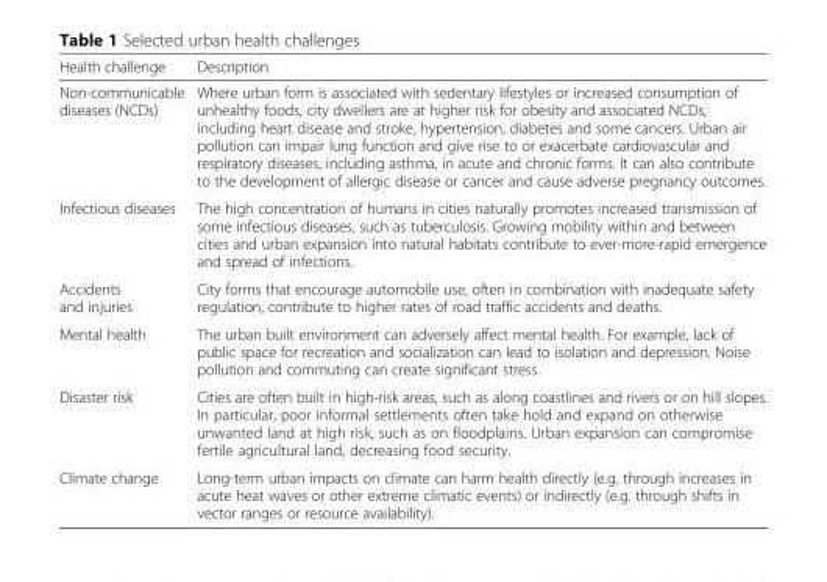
<table><thead><tr><td>Health challenge</td><td>Description</td></tr></thead><tbody><tr><td>Non-communicable diseases (NCDs)</td><td>Where urban form is associated with sedentary lifestyles or increased consumption of unhealthy foods, city dwellers are at higher risk for obesity and associated NCDs, including heart disease and stroke, hypertension, diabetes and some cancers. Urban air pollution can impair lung function and give rise to or exacerbate cardiovascular and respiratory diseases, including asthma, in acute and chronic forms. It can also contribute to the development of allergic disease or cancer and cause adverse pregnancy outcomes.</td></tr><tr><td>Infectious diseases</td><td>The high concentration of humans in cities naturally promotes increased transmission of some infectious diseases, such as tuberculosis. Growing mobility within and between cities and urban expansion into natural habitats contribute to ever-more-rapid emergence and spread of infections.</td></tr><tr><td>Accidents and injuries</td><td>City forms that encourage automobile use, often in combination with inadequate safety regulation, contribute to higher rates of road traffic accidents and deaths.</td></tr><tr><td>Mental health</td><td>The urban built environment can adversely affect mental health. For example, lack of public space for recreation and socialization can lead to isolation and depression. Noise pollution and commuting can create significant stress.</td></tr><tr><td>Disaster risk</td><td>Cities are often built in high-risk areas, such as along coastlines and rivers or on hill slopes. In particular, poor informal settlements often take hold and expand on otherwise unwanted land at high risk, such as on floodplains. Urban expansion can compromise fertile agricultural land, decreasing food security.</td></tr><tr><td>Climate change</td><td>Long-term urban impacts on climate can harm health directly (e.g. through increases in acute heat waves or other extreme climatic events) or indirectly (e.g. through shifts in vector ranges or resource availability).</td></tr></tbody></table>